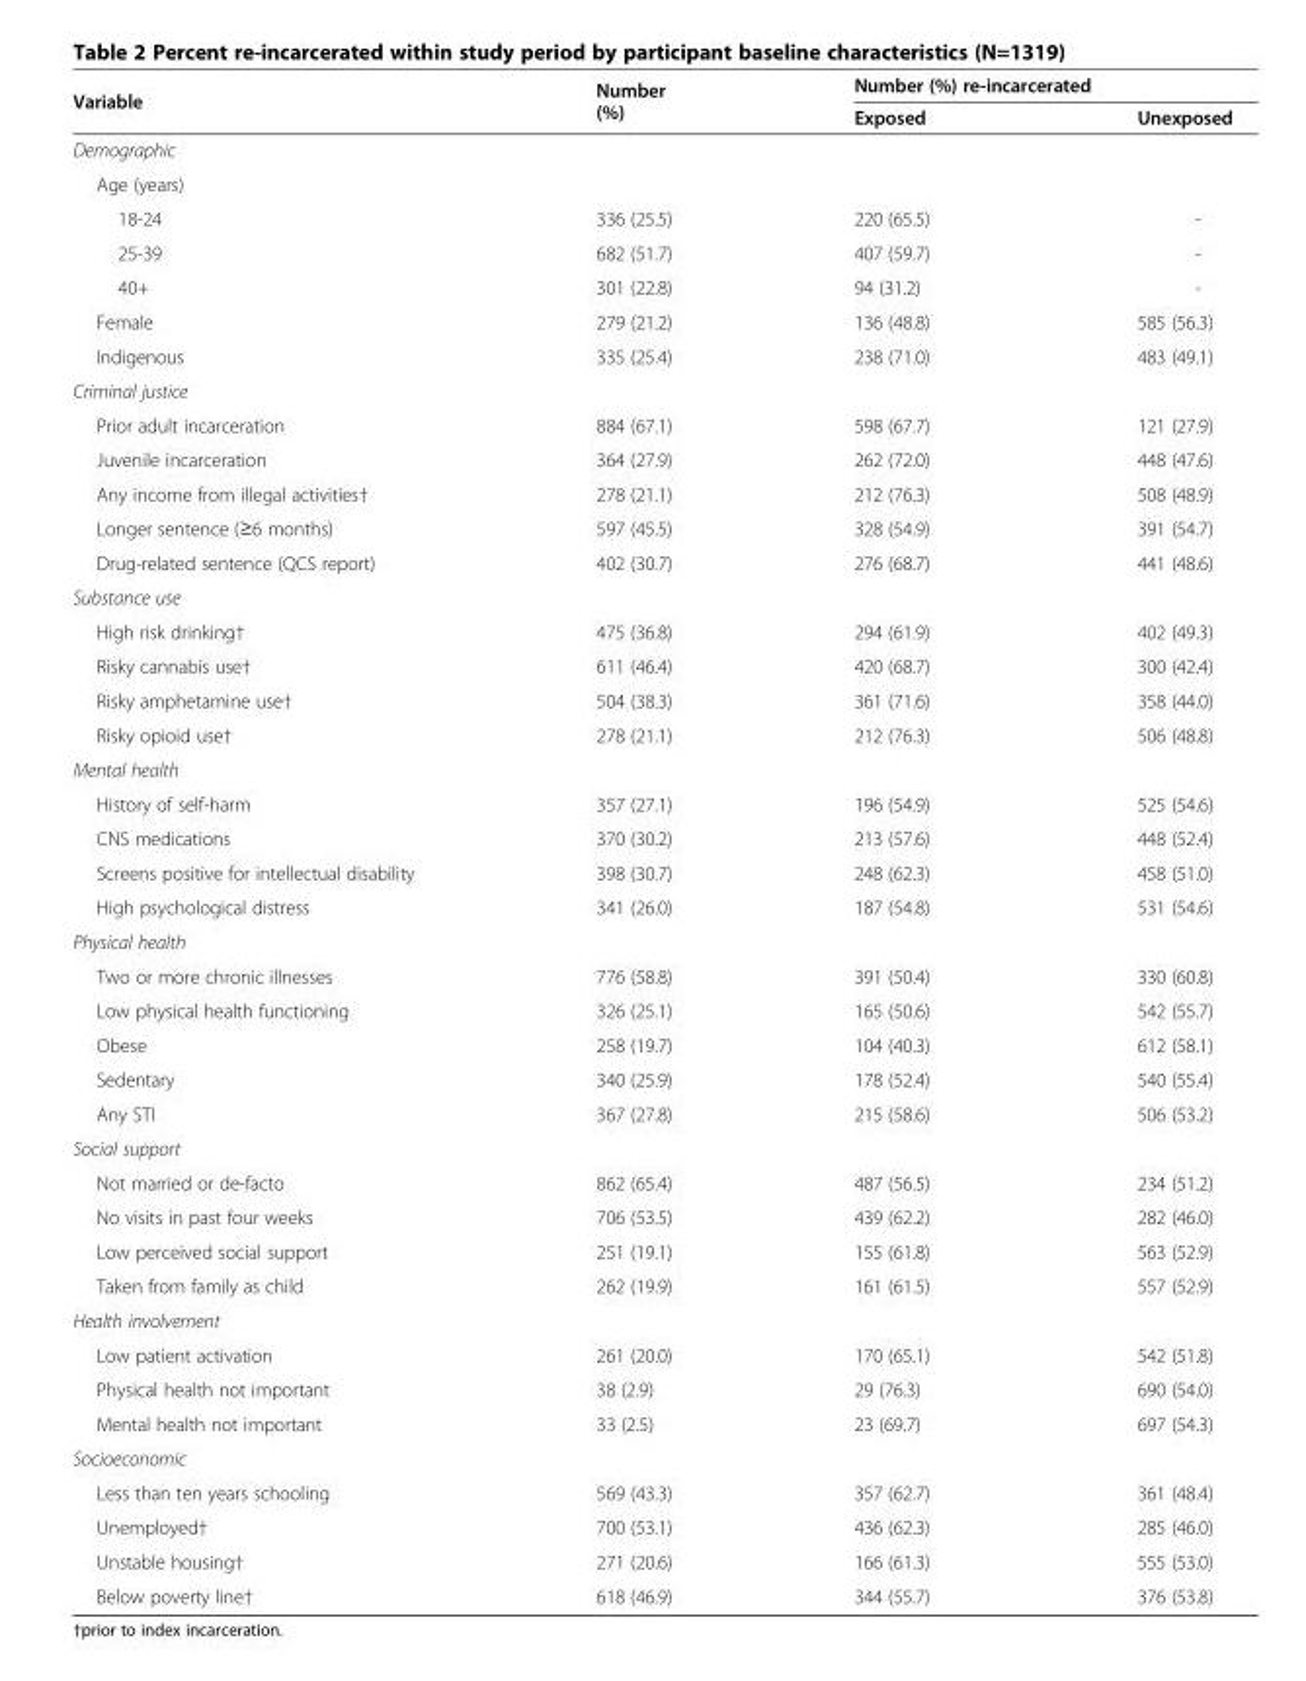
<table><thead><tr><td rowspan="2">Variable</td><td rowspan="2">Number (%)</td><td colspan="2">Number (%) re-incarcerated</td></tr><tr><td>Exposed</td><td>Unexposed</td></tr></thead><tbody><tr><td colspan="4">Demographic</td></tr><tr><td colspan="4">Age (years)</td></tr><tr><td>18-24</td><td>336 (25.5)</td><td>220 (65.5)</td><td>-</td></tr><tr><td>25-39</td><td>682 (51.7)</td><td>407 (59.7)</td><td>-</td></tr><tr><td>40+</td><td>301 (22.8)</td><td>94 (31.2)</td><td>-</td></tr><tr><td>Female</td><td>279 (21.2)</td><td>136 (48.8)</td><td>585 (56.3)</td></tr><tr><td>Indigenous</td><td>335 (25.4)</td><td>238 (71.0)</td><td>483 (49.1)</td></tr><tr><td colspan="4">Criminal justice</td></tr><tr><td>Prior adult incarceration</td><td>884 (67.1)</td><td>598 (67.7)</td><td>121 (27.9)</td></tr><tr><td>Juvenile incarceration</td><td>364 (27.9)</td><td>262 (72.0)</td><td>448 (47.6)</td></tr><tr><td>Any income from illegal activities†</td><td>278 (21.1)</td><td>212 (76.3)</td><td>508 (48.9)</td></tr><tr><td>Longer sentence (≥6 months)</td><td>597 (45.5)</td><td>328 (54.9)</td><td>391 (54.7)</td></tr><tr><td>Drug-related sentence (QCS report)</td><td>402 (30.7)</td><td>276 (68.7)</td><td>441 (48.6)</td></tr><tr><td colspan="4">Substance use</td></tr><tr><td>High risk drinking†</td><td>475 (36.8)</td><td>294 (61.9)</td><td>402 (49.3)</td></tr><tr><td>Risky cannabis use†</td><td>611 (46.4)</td><td>420 (68.7)</td><td>300 (42.4)</td></tr><tr><td>Risky amphetamine use†</td><td>504 (38.3)</td><td>361 (71.6)</td><td>358 (44.0)</td></tr><tr><td>Risky opioid use†</td><td>278 (21.1)</td><td>212 (76.3)</td><td>506 (48.8)</td></tr><tr><td colspan="4">Mental health</td></tr><tr><td>History of self-harm</td><td>357 (27.1)</td><td>196 (54.9)</td><td>525 (54.6)</td></tr><tr><td>CNS medications</td><td>370 (30.2)</td><td>213 (57.6)</td><td>448 (52.4)</td></tr><tr><td>Screens positive for intellectual disability</td><td>398 (30.7)</td><td>248 (62.3)</td><td>458 (51.0)</td></tr><tr><td>High psychological distress</td><td>341 (26.0)</td><td>187 (54.8)</td><td>531 (54.6)</td></tr><tr><td colspan="4">Physical health</td></tr><tr><td>Two or more chronic illnesses</td><td>776 (58.8)</td><td>391 (50.4)</td><td>330 (60.8)</td></tr><tr><td>Low physical health functioning</td><td>326 (25.1)</td><td>165 (50.6)</td><td>542 (55.7)</td></tr><tr><td>Obese</td><td>258 (19.7)</td><td>104 (40.3)</td><td>612 (58.1)</td></tr><tr><td>Sedentary</td><td>340 (25.9)</td><td>178 (52.4)</td><td>540 (55.4)</td></tr><tr><td>Any STI</td><td>367 (27.8)</td><td>215 (58.6)</td><td>506 (53.2)</td></tr><tr><td colspan="4">Social support</td></tr><tr><td>Not married or de-facto</td><td>862 (65.4)</td><td>487 (56.5)</td><td>234 (51.2)</td></tr><tr><td>No visits in past four weeks</td><td>706 (53.5)</td><td>439 (62.2)</td><td>282 (46.0)</td></tr><tr><td>Low perceived social support</td><td>251 (19.1)</td><td>155 (61.8)</td><td>563 (52.9)</td></tr><tr><td>Taken from family as child</td><td>262 (19.9)</td><td>161 (61.5)</td><td>557 (52.9)</td></tr><tr><td colspan="4">Health involvement</td></tr><tr><td>Low patient activation</td><td>261 (20.0)</td><td>170 (65.1)</td><td>542 (51.8)</td></tr><tr><td>Physical health not important</td><td>38 (2.9)</td><td>29 (76.3)</td><td>690 (54.0)</td></tr><tr><td>Mental health not important</td><td>33 (2.5)</td><td>23 (69.7)</td><td>697 (54.3)</td></tr><tr><td colspan="4">Socioeconomic</td></tr><tr><td>Less than ten years schooling</td><td>569 (43.3)</td><td>357 (62.7)</td><td>361 (48.4)</td></tr><tr><td>Unemployed†</td><td>700 (53.1)</td><td>436 (62.3)</td><td>285 (46.0)</td></tr><tr><td>Unstable housing†</td><td>271 (20.6)</td><td>166 (61.3)</td><td>555 (53.0)</td></tr><tr><td>Below poverty line†</td><td>618 (46.9)</td><td>344 (55.7)</td><td>376 (53.8)</td></tr></tbody></table>